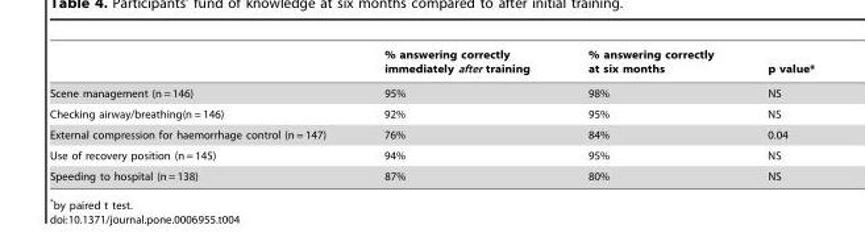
<table><thead><tr><td></td><td>% answering correctly immediately after training</td><td>% answering correctly at six months</td><td>p value*</td></tr></thead><tbody><tr><td>Scene management (n = 146)</td><td>95%</td><td>98%</td><td>NS</td></tr><tr><td>Checking airway/breathing(n = 146)</td><td>92%</td><td>95%</td><td>NS</td></tr><tr><td>External compression for haemorrhage control (n = 147)</td><td>76%</td><td>84%</td><td>0.04</td></tr><tr><td>Use of recovery position (n = 145)</td><td>94%</td><td>95%</td><td>NS</td></tr><tr><td>Speeding to hospital (n = 138)</td><td>87%</td><td>80%</td><td>NS</td></tr></tbody></table>